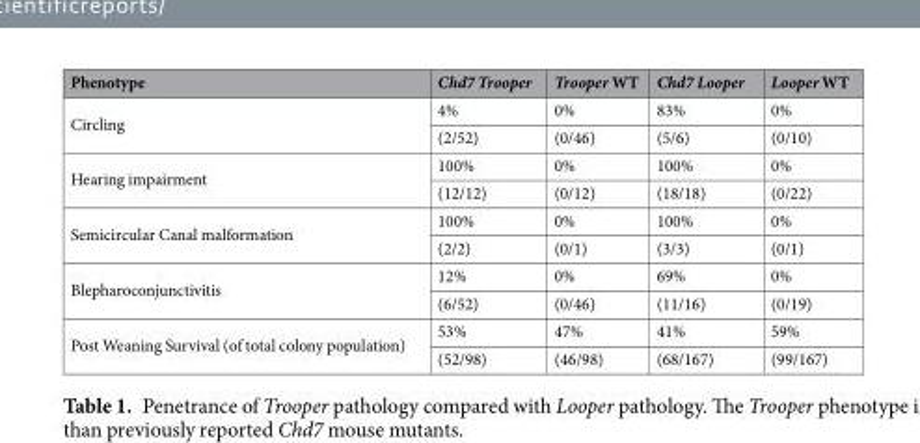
<table><thead><tr><td>Phenotype</td><td>Chd7 Trooper</td><td>Trooper WT</td><td>Chd7 Looper</td><td>Looper WT</td></tr></thead><tbody><tr><td rowspan="2">Circling</td><td>4%</td><td>0%</td><td>83%</td><td>0%</td></tr><tr><td>(2/52)</td><td>(0/46)</td><td>(5/6)</td><td>(0/10)</td></tr><tr><td rowspan="2">Hearing impairment</td><td>100%</td><td>0%</td><td>100%</td><td>0%</td></tr><tr><td>(12/12)</td><td>(0/12)</td><td>(18/18)</td><td>(0/22)</td></tr><tr><td rowspan="2">Semicircular Canal malformation</td><td>100%</td><td>0%</td><td>100%</td><td>0%</td></tr><tr><td>(2/2)</td><td>(0/1)</td><td>(3/3)</td><td>(0/1)</td></tr><tr><td rowspan="2">Blepharoconjunctivitis</td><td>12%</td><td>0%</td><td>69%</td><td>0%</td></tr><tr><td>(6/52)</td><td>(0/46)</td><td>(11/16)</td><td>(0/19)</td></tr><tr><td rowspan="2">Post Weaning Survival (of total colony population)</td><td>53%</td><td>47%</td><td>41%</td><td>59%</td></tr><tr><td>(52/98)</td><td>(46/98)</td><td>(68/167)</td><td>(99/167)</td></tr></tbody></table>